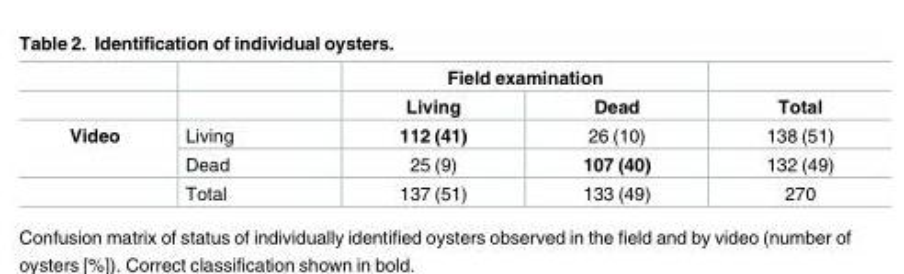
<table><thead><tr><td rowspan="2"></td><td rowspan="2"></td><td colspan="2">Field examination</td><td rowspan="2">Total</td></tr><tr><td>Living</td><td>Dead</td></tr></thead><tbody><tr><td rowspan="3">Video</td><td>Living</td><td>112 (41)</td><td>26 (10)</td><td>138 (51)</td></tr><tr><td>Dead</td><td>25 (9)</td><td>107 (40)</td><td>132 (49)</td></tr><tr><td>Total</td><td>137 (51)</td><td>133 (49)</td><td>270</td></tr></tbody></table>